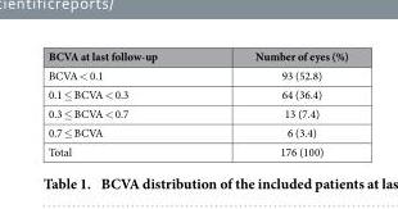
<table><thead><tr><td>BCVA at last follow-up</td><td>Number of eyes (%)</td></tr></thead><tbody><tr><td>BCVA &lt; 0.1</td><td>93 (52.8)</td></tr><tr><td>0.1 ≤ BCVA &lt; 0.3</td><td>64 (36.4)</td></tr><tr><td>0.3 ≤ BCVA &lt; 0.7</td><td>13 (7.4)</td></tr><tr><td>0.7 ≤ BCVA</td><td>6 (3.4)</td></tr><tr><td>Total</td><td>176 (100)</td></tr></tbody></table>